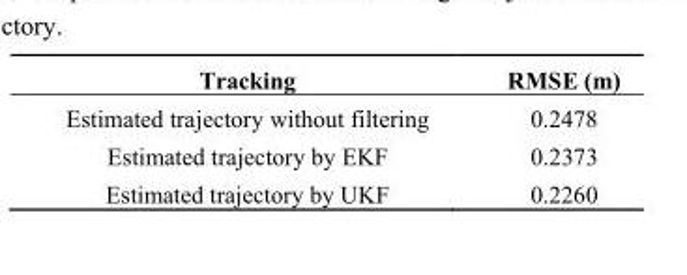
<table><thead><tr><td>Tracking</td><td>RMSE (m)</td></tr></thead><tbody><tr><td>Estimated trajectory without filtering</td><td>0.2478</td></tr><tr><td>Estimated trajectory by EKF</td><td>0.2373</td></tr><tr><td>Estimated trajectory by UKF</td><td>0.2260</td></tr></tbody></table>